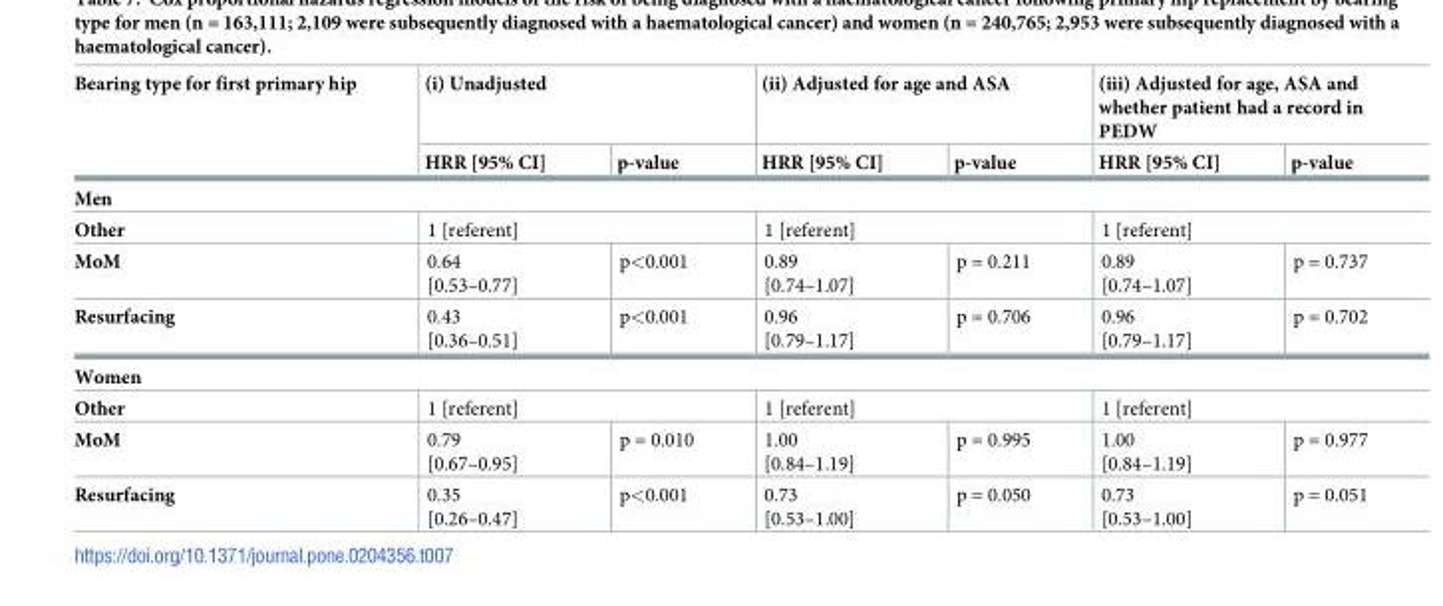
<table><thead><tr><td rowspan="2">Bearing type for first primary hip</td><td colspan="2">(i) Unadjusted</td><td colspan="2">(ii) Adjusted for age and ASA</td><td colspan="2">(iii) Adjusted for age, ASA and whether patient had a record in PEDW</td></tr><tr><td>HRR [95% CI]</td><td>p-value</td><td>HRR [95% CI]</td><td>p-value</td><td>HRR [95% CI]</td><td>p-value</td></tr></thead><tbody><tr><td colspan="7">Men</td></tr><tr><td>Other</td><td colspan="2">1 [referent]</td><td colspan="2">1 [referent]</td><td colspan="2">1 [referent]</td></tr><tr><td>MoM</td><td>0.64 [0.53–0.77]</td><td>p&lt;0.001</td><td>0.89 [0.74–1.07]</td><td>p = 0.211</td><td>0.89 [0.74–1.07]</td><td>p = 0.737</td></tr><tr><td>Resurfacing</td><td>0.43 [0.36–0.51]</td><td>p&lt;0.001</td><td>0.96 [0.79–1.17]</td><td>p = 0.706</td><td>0.96 [0.79–1.17]</td><td>p = 0.702</td></tr><tr><td colspan="7">Women</td></tr><tr><td>Other</td><td colspan="2">1 [referent]</td><td colspan="2">1 [referent]</td><td colspan="2">1 [referent]</td></tr><tr><td>MoM</td><td>0.79 [0.67–0.95]</td><td>p = 0.010</td><td>1.00 [0.84–1.19]</td><td>p = 0.995</td><td>1.00 [0.84–1.19]</td><td>p = 0.977</td></tr><tr><td>Resurfacing</td><td>0.35 [0.26–0.47]</td><td>p&lt;0.001</td><td>0.73 [0.53–1.00]</td><td>p = 0.050</td><td>0.73 [0.53–1.00]</td><td>p = 0.051</td></tr></tbody></table>